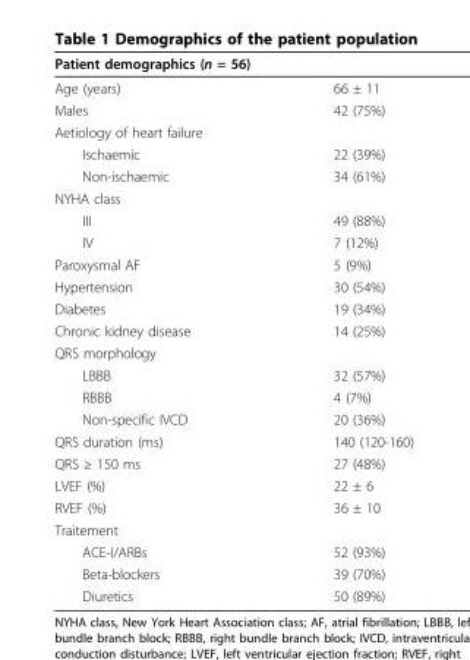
<table><thead><tr><td>Patient demographics (n = 56)</td><td></td></tr></thead><tbody><tr><td>Age (years)</td><td>66 ± 11</td></tr><tr><td>Males</td><td>42 (75%)</td></tr><tr><td colspan="2">Aetiology of heart failure</td></tr><tr><td>Ischaemic</td><td>22 (39%)</td></tr><tr><td>Non-ischaemic</td><td>34 (61%)</td></tr><tr><td colspan="2">NYHA class</td></tr><tr><td>III</td><td>49 (88%)</td></tr><tr><td>IV</td><td>7 (12%)</td></tr><tr><td>Paroxysmal AF</td><td>5 (9%)</td></tr><tr><td>Hypertension</td><td>30 (54%)</td></tr><tr><td>Diabetes</td><td>19 (34%)</td></tr><tr><td>Chronic kidney disease</td><td>14 (25%)</td></tr><tr><td colspan="2">QRS morphology</td></tr><tr><td>LBBB</td><td>32 (57%)</td></tr><tr><td>RBBB</td><td>4 (7%)</td></tr><tr><td>Non-specific IVCD</td><td>20 (36%)</td></tr><tr><td>QRS duration (ms)</td><td>140 (120-160)</td></tr><tr><td>QRS ≥ 150 ms</td><td>27 (48%)</td></tr><tr><td>LVEF (%)</td><td>22 ± 6</td></tr><tr><td>RVEF (%)</td><td>36 ± 10</td></tr><tr><td colspan="2">Traitement</td></tr><tr><td>ACE-I/ARBs</td><td>52 (93%)</td></tr><tr><td>Beta-blockers</td><td>39 (70%)</td></tr><tr><td>Diuretics</td><td>50 (89%)</td></tr></tbody></table>